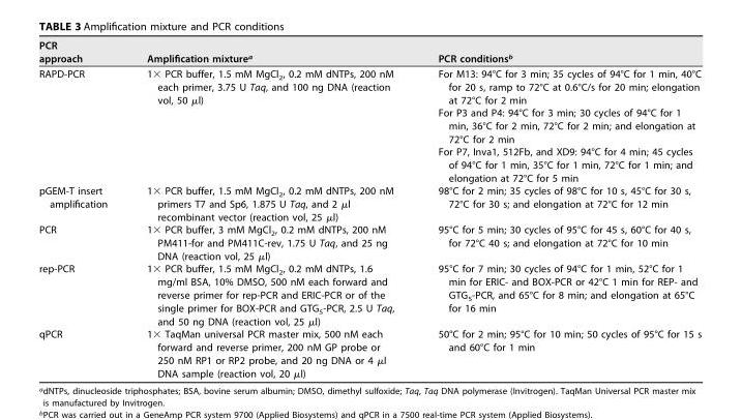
<table><thead><tr><td>PCR approach</td><td>Amplification mixture<sup>a</sup></td><td>PCR conditions<sup>b</sup></td></tr></thead><tbody><tr><td rowspan="3">RAPD-PCR</td><td>1× PCR buffer, 1.5 mM MgCl<sub>2</sub>, 0.2 mM dNTPs, 200 nM each primer, 3.75 U Taq, and 100 ng DNA (reaction vol, 50 μl)</td><td>For M13: 94°C for 3 min; 35 cycles of 94°C for 1 min, 40°C for 20 s, ramp to 72°C at 0.6°C/s for 20 min; elongation at 72°C for 2 min</td></tr><tr><td></td><td>For P3 and P4: 94°C for 3 min; 30 cycles of 94°C for 1 min, 36°C for 2 min, 72°C for 2 min; and elongation at 72°C for 2 min</td></tr><tr><td></td><td>For P7, Inva1, 512Fb, and XD9: 94°C for 4 min; 45 cycles of 94°C for 1 min, 35°C for 1 min, 72°C for 1 min; and elongation at 72°C for 5 min</td></tr><tr><td>pGEM-T insert amplification</td><td>1× PCR buffer, 1.5 mM MgCl<sub>2</sub>, 0.2 mM dNTPs, 200 nM primers T7 and Sp6, 1.875 U Taq, and 2 μl recombinant vector (reaction vol, 25 μl)</td><td>98°C for 2 min; 35 cycles of 98°C for 10 s, 45°C for 30 s, 72°C for 30 s; and elongation at 72°C for 12 min</td></tr><tr><td>PCR</td><td>1× PCR buffer, 3 mM MgCl<sub>2</sub>, 0.2 mM dNTPs, 200 nM PM411-for and PM411C-rev, 1.75 U Taq, and 25 ng DNA (reaction vol, 25 μl)</td><td>95°C for 5 min; 30 cycles of 95°C for 45 s, 60°C for 40 s, for 72°C 40 s; and elongation at 72°C for 10 min</td></tr><tr><td>rep-PCR</td><td>1× PCR buffer, 1.5 mM MgCl<sub>2</sub>, 0.2 mM dNTPs, 1.6 mg/ml BSA, 10% DMSO, 500 nM each forward and reverse primer for rep-PCR and ERIC-PCR or of the single primer for BOX-PCR and GTG<sub>5</sub>-PCR, 2.5 U Taq, and 50 ng DNA (reaction vol, 25 μl)</td><td>95°C for 7 min; 30 cycles of 94°C for 1 min, 52°C for 1 min for ERIC- and BOX-PCR or 42°C 1 min for REP- and GTG<sub>5</sub>-PCR, and 65°C for 8 min; and elongation at 65°C for 16 min</td></tr><tr><td>qPCR</td><td>1× TaqMan universal PCR master mix, 500 nM each forward and reverse primer, 200 nM GP probe or 250 nM RP1 or RP2 probe, and 20 ng DNA or 4 μl DNA sample (reaction vol, 20 μl)</td><td>50°C for 2 min; 95°C for 10 min; 50 cycles of 95°C for 15 s and 60°C for 1 min</td></tr></tbody></table>